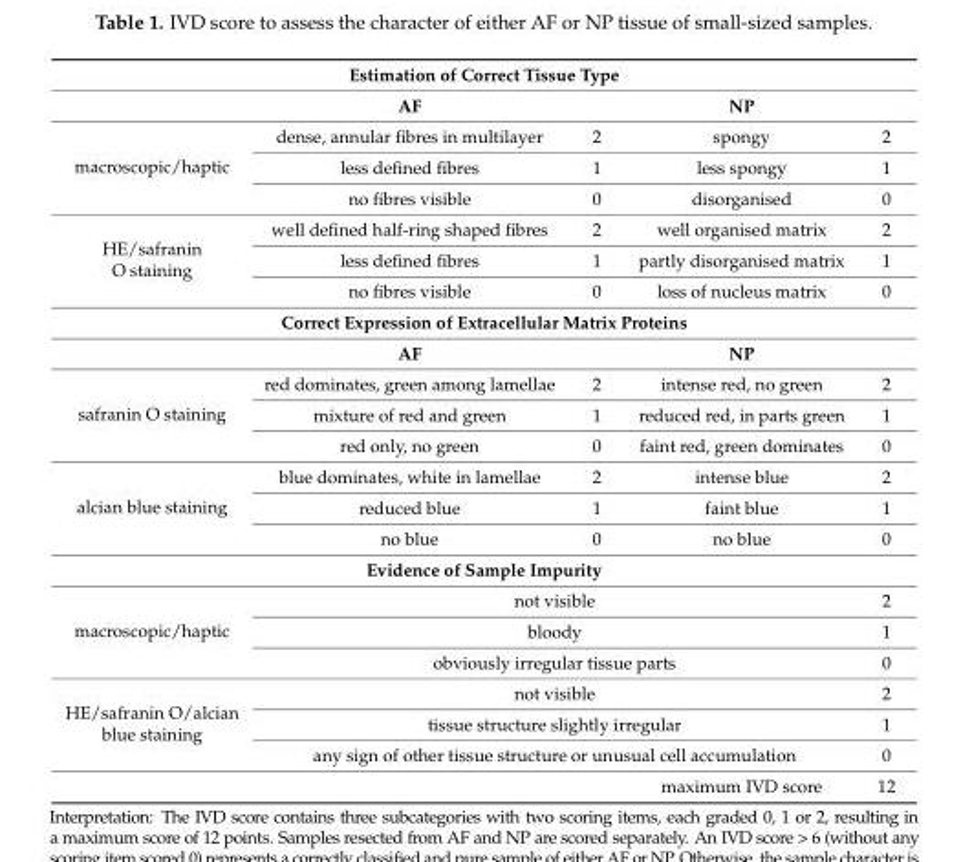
<table><thead><tr><td colspan="5">Estimation of Correct Tissue Type</td></tr><tr><td></td><td>AF</td><td></td><td>NP</td><td></td></tr></thead><tbody><tr><td rowspan="3">macroscopic/haptic</td><td>dense, annular fibres in multilayer</td><td>2</td><td>spongy</td><td>2</td></tr><tr><td>less defined fibres</td><td>1</td><td>less spongy</td><td>1</td></tr><tr><td>no fibres visible</td><td>0</td><td>disorganised</td><td>0</td></tr><tr><td rowspan="3">HE/safranin O staining</td><td>well defined half-ring shaped fibres</td><td>2</td><td>well organised matrix</td><td>2</td></tr><tr><td>less defined fibres</td><td>1</td><td>partly disorganised matrix</td><td>1</td></tr><tr><td>no fibres visible</td><td>0</td><td>loss of nucleus matrix</td><td>0</td></tr><tr><td colspan="5">Correct Expression of Extracellular Matrix Proteins</td></tr><tr><td></td><td>AF</td><td></td><td>NP</td><td></td></tr><tr><td rowspan="3">safranin O staining</td><td>red dominates, green among lamellae</td><td>2</td><td>intense red, no green</td><td>2</td></tr><tr><td>mixture of red and green</td><td>1</td><td>reduced red, in parts green</td><td>1</td></tr><tr><td>red only, no green</td><td>0</td><td>faint red, green dominates</td><td>0</td></tr><tr><td rowspan="3">alcian blue staining</td><td>blue dominates, white in lamellae</td><td>2</td><td>intense blue</td><td>2</td></tr><tr><td>reduced blue</td><td>1</td><td>faint blue</td><td>1</td></tr><tr><td>no blue</td><td>0</td><td>no blue</td><td>0</td></tr><tr><td colspan="5">Evidence of Sample Impurity</td></tr><tr><td rowspan="3">macroscopic/haptic</td><td colspan="3">not visible</td><td>2</td></tr><tr><td colspan="3">bloody</td><td>1</td></tr><tr><td colspan="3">obviously irregular tissue parts</td><td>0</td></tr><tr><td rowspan="3">HE/safranin O/alcian blue staining</td><td colspan="3">not visible</td><td>2</td></tr><tr><td colspan="3">tissue structure slightly irregular</td><td>1</td></tr><tr><td colspan="3">any sign of other tissue structure or unusual cell accumulation</td><td>0</td></tr><tr><td colspan="3"></td><td>maximum IVD score</td><td>12</td></tr></tbody></table>